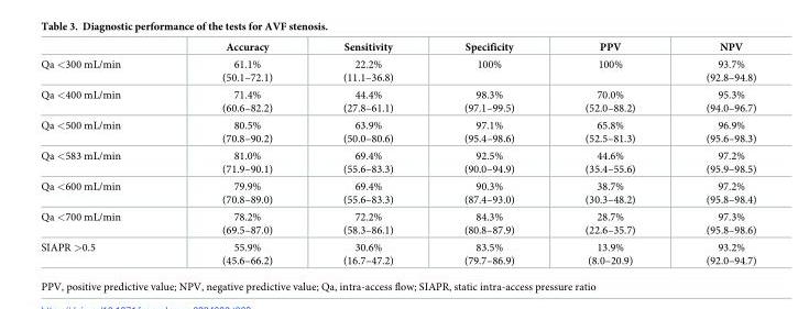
<table><thead><tr><td></td><td>Accuracy</td><td>Sensitivity</td><td>Specificity</td><td>PPV</td><td>NPV</td></tr></thead><tbody><tr><td>Qa &lt;300 mL/min</td><td>61.1% (50.1–72.1)</td><td>22.2% (11.1–36.8)</td><td>100%</td><td>100%</td><td>93.7% (92.8–94.8)</td></tr><tr><td>Qa &lt;400 mL/min</td><td>71.4% (60.6–82.2)</td><td>44.4% (27.8–61.1)</td><td>98.3% (97.1–99.5)</td><td>70.0% (52.0–88.2)</td><td>95.3% (94.0–96.7)</td></tr><tr><td>Qa &lt;500 mL/min</td><td>80.5% (70.8–90.2)</td><td>63.9% (50.0–80.6)</td><td>97.1% (95.4–98.6)</td><td>65.8% (52.5–81.3)</td><td>96.9% (95.6–98.3)</td></tr><tr><td>Qa &lt;583 mL/min</td><td>81.0% (71.9–90.1)</td><td>69.4% (55.6–83.3)</td><td>92.5% (90.0–94.9)</td><td>44.6% (35.4–55.6)</td><td>97.2% (95.9–98.5)</td></tr><tr><td>Qa &lt;600 mL/min</td><td>79.9% (70.8–89.0)</td><td>69.4% (55.6–83.3)</td><td>90.3% (87.4–93.0)</td><td>38.7% (30.3–48.2)</td><td>97.2% (95.8–98.4)</td></tr><tr><td>Qa &lt;700 mL/min</td><td>78.2% (69.5–87.0)</td><td>72.2% (58.3–86.1)</td><td>84.3% (80.8–87.9)</td><td>28.7% (22.6–35.7)</td><td>97.3% (95.8–98.6)</td></tr><tr><td>SIAPR &gt;0.5</td><td>55.9% (45.6–66.2)</td><td>30.6% (16.7–47.2)</td><td>83.5% (79.7–86.9)</td><td>13.9% (8.0–20.9)</td><td>93.2% (92.0–94.7)</td></tr></tbody></table>